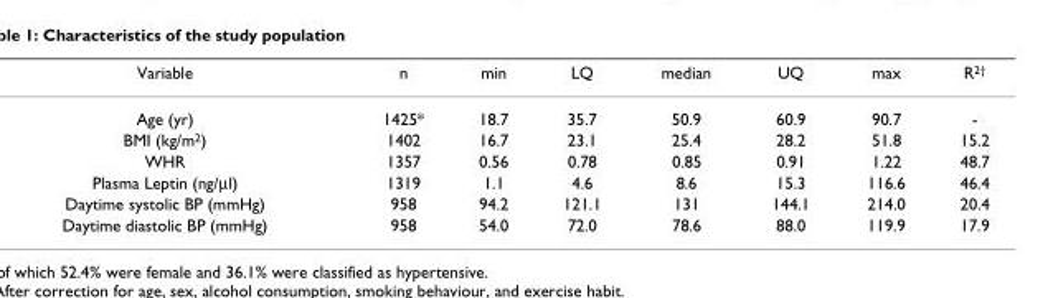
<table><thead><tr><td>Variable</td><td>n</td><td>min</td><td>LQ</td><td>median</td><td>UQ</td><td>max</td><td>R<sup>2†</sup></td></tr></thead><tbody><tr><td>Age (yr)</td><td>1425*</td><td>18.7</td><td>35.7</td><td>50.9</td><td>60.9</td><td>90.7</td><td>-</td></tr><tr><td>BMI (kg/m<sup>2</sup>)</td><td>1402</td><td>16.7</td><td>23.1</td><td>25.4</td><td>28.2</td><td>51.8</td><td>15.2</td></tr><tr><td>WHR</td><td>1357</td><td>0.56</td><td>0.78</td><td>0.85</td><td>0.91</td><td>1.22</td><td>48.7</td></tr><tr><td>Plasma Leptin (ng/μl)</td><td>1319</td><td>1.1</td><td>4.6</td><td>8.6</td><td>15.3</td><td>116.6</td><td>46.4</td></tr><tr><td>Daytime systolic BP (mmHg)</td><td>958</td><td>94.2</td><td>121.1</td><td>131</td><td>144.1</td><td>214.0</td><td>20.4</td></tr><tr><td>Daytime diastolic BP (mmHg)</td><td>958</td><td>54.0</td><td>72.0</td><td>78.6</td><td>88.0</td><td>119.9</td><td>17.9</td></tr></tbody></table>